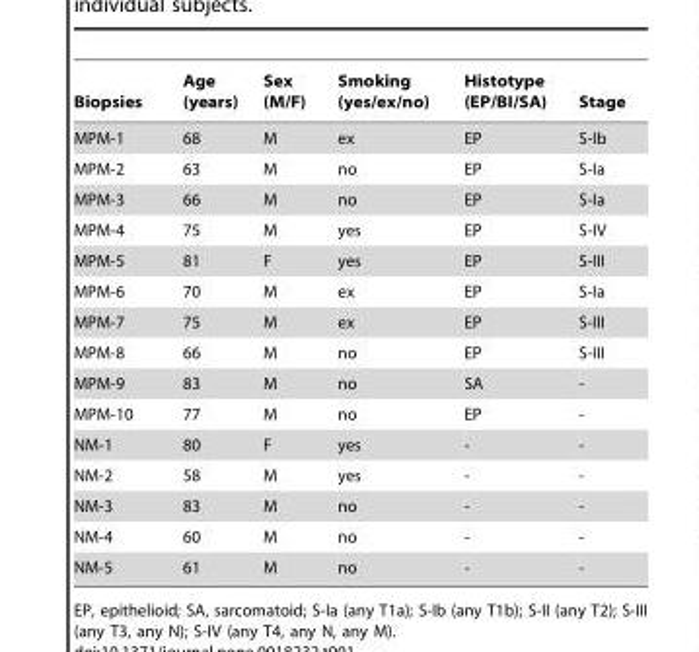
<table><thead><tr><td>Biopsies</td><td>Age (years)</td><td>Sex (M/F)</td><td>Smoking (yes/ex/no)</td><td>Histotype (EP/BI/SA)</td><td>Stage</td></tr></thead><tbody><tr><td>MPM-1</td><td>68</td><td>M</td><td>ex</td><td>EP</td><td>S-Ib</td></tr><tr><td>MPM-2</td><td>63</td><td>M</td><td>no</td><td>EP</td><td>S-Ia</td></tr><tr><td>MPM-3</td><td>66</td><td>M</td><td>no</td><td>EP</td><td>S-Ia</td></tr><tr><td>MPM-4</td><td>75</td><td>M</td><td>yes</td><td>EP</td><td>S-IV</td></tr><tr><td>MPM-5</td><td>81</td><td>F</td><td>yes</td><td>EP</td><td>S-III</td></tr><tr><td>MPM-6</td><td>70</td><td>M</td><td>ex</td><td>EP</td><td>S-Ia</td></tr><tr><td>MPM-7</td><td>75</td><td>M</td><td>ex</td><td>EP</td><td>S-III</td></tr><tr><td>MPM-8</td><td>66</td><td>M</td><td>no</td><td>EP</td><td>S-III</td></tr><tr><td>MPM-9</td><td>83</td><td>M</td><td>no</td><td>SA</td><td>-</td></tr><tr><td>MPM-10</td><td>77</td><td>M</td><td>no</td><td>EP</td><td>-</td></tr><tr><td>NM-1</td><td>80</td><td>F</td><td>yes</td><td>-</td><td>-</td></tr><tr><td>NM-2</td><td>58</td><td>M</td><td>yes</td><td>-</td><td>-</td></tr><tr><td>NM-3</td><td>83</td><td>M</td><td>no</td><td>-</td><td>-</td></tr><tr><td>NM-4</td><td>60</td><td>M</td><td>no</td><td>-</td><td>-</td></tr><tr><td>NM-5</td><td>61</td><td>M</td><td>no</td><td>-</td><td>-</td></tr></tbody></table>